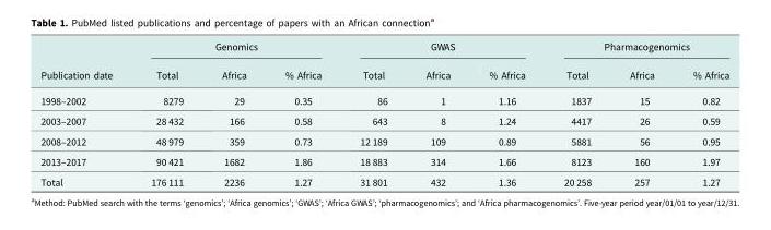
<table><thead><tr><td rowspan="2">Publication date</td><td colspan="3">Genomics</td><td colspan="3">GWAS</td><td colspan="3">Pharmacogenomics</td></tr><tr><td>Total</td><td>Africa</td><td>% Africa</td><td>Total</td><td>Africa</td><td>% Africa</td><td>Total</td><td>Africa</td><td>% Africa</td></tr></thead><tbody><tr><td>1998–2002</td><td>8279</td><td>29</td><td>0.35</td><td>86</td><td>1</td><td>1.16</td><td>1837</td><td>15</td><td>0.82</td></tr><tr><td>2003–2007</td><td>28 432</td><td>166</td><td>0.58</td><td>643</td><td>8</td><td>1.24</td><td>4417</td><td>26</td><td>0.59</td></tr><tr><td>2008–2012</td><td>48 979</td><td>359</td><td>0.73</td><td>12 189</td><td>109</td><td>0.89</td><td>5881</td><td>56</td><td>0.95</td></tr><tr><td>2013–2017</td><td>90 421</td><td>1682</td><td>1.86</td><td>18 883</td><td>314</td><td>1.66</td><td>8123</td><td>160</td><td>1.97</td></tr><tr><td>Total</td><td>176 111</td><td>2236</td><td>1.27</td><td>31 801</td><td>432</td><td>1.36</td><td>20 258</td><td>257</td><td>1.27</td></tr></tbody></table>